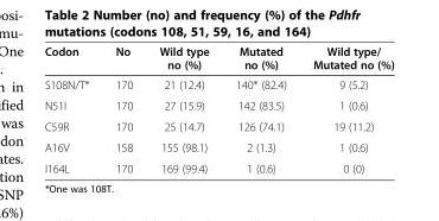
<table><thead><tr><td>Codon</td><td>No</td><td>Wild type no (%)</td><td>Mutated no (%)</td><td>Wild type/ Mutated no (%)</td></tr></thead><tbody><tr><td>S108N/T*</td><td>170</td><td>21 (12.4)</td><td>140* (82.4)</td><td>9 (5.2)</td></tr><tr><td>N51I</td><td>170</td><td>27 (15.9)</td><td>142 (83.5)</td><td>1 (0.6)</td></tr><tr><td>C59R</td><td>170</td><td>25 (14.7)</td><td>126 (74.1)</td><td>19 (11.2)</td></tr><tr><td>A16V</td><td>158</td><td>155 (98.1)</td><td>2 (1.3)</td><td>1 (0.6)</td></tr><tr><td>I164L</td><td>170</td><td>169 (99.4)</td><td>1 (0.6)</td><td>0 (0)</td></tr></tbody></table>